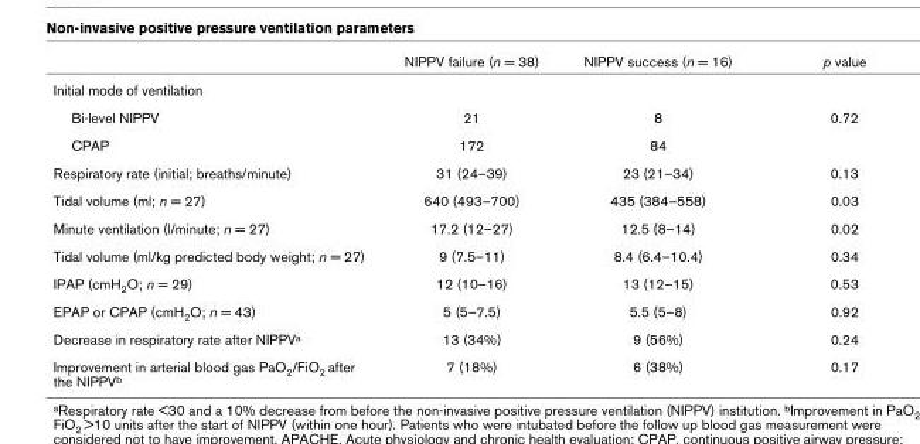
<table><thead><tr><td></td><td>NIPPV failure (n = 38)</td><td>NIPPV success (n = 16)</td><td>p value</td></tr></thead><tbody><tr><td colspan="4">Initial mode of ventilation</td></tr><tr><td>Bi-level NIPPV</td><td>21</td><td>8</td><td>0.72</td></tr><tr><td>CPAP</td><td>172</td><td>84</td><td></td></tr><tr><td>Respiratory rate (initial; breaths/minute)</td><td>31 (24–39)</td><td>23 (21–34)</td><td>0.13</td></tr><tr><td>Tidal volume (ml; n = 27)</td><td>640 (493–700)</td><td>435 (384–558)</td><td>0.03</td></tr><tr><td>Minute ventilation (l/minute; n = 27)</td><td>17.2 (12–27)</td><td>12.5 (8–14)</td><td>0.02</td></tr><tr><td>Tidal volume (ml/kg predicted body weight; n = 27)</td><td>9 (7.5–11)</td><td>8.4 (6.4–10.4)</td><td>0.34</td></tr><tr><td>IPAP (cmH2O; n = 29)</td><td>12 (10–16)</td><td>13 (12–15)</td><td>0.53</td></tr><tr><td>EPAP or CPAP (cmH2O; n = 43)</td><td>5 (5–7.5)</td><td>5.5 (5–8)</td><td>0.92</td></tr><tr><td>Decrease in respiratory rate after NIPPVa</td><td>13 (34%)</td><td>9 (56%)</td><td>0.24</td></tr><tr><td>Improvement in arterial blood gas PaO2/FiO2 after the NIPPVb</td><td>7 (18%)</td><td>6 (38%)</td><td>0.17</td></tr></tbody></table>